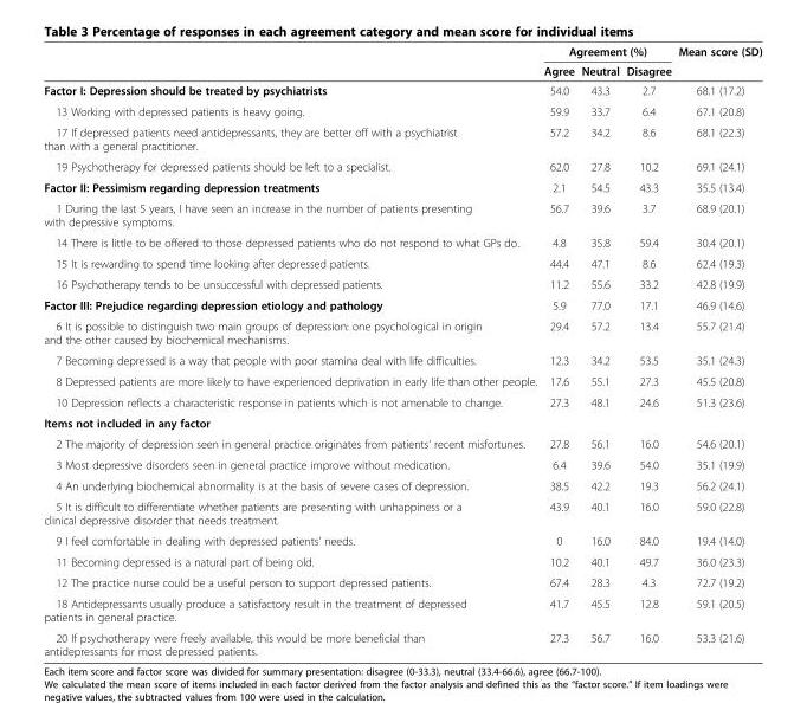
<table><thead><tr><td rowspan="2"></td><td colspan="3">Agreement (%)</td><td rowspan="2">Mean score (SD)</td></tr><tr><td>Agree</td><td>Neutral</td><td>Disagree</td></tr></thead><tbody><tr><td>Factor I: Depression should be treated by psychiatrists</td><td>54.0</td><td>43.3</td><td>2.7</td><td>68.1 (17.2)</td></tr><tr><td>13 Working with depressed patients is heavy going.</td><td>59.9</td><td>33.7</td><td>6.4</td><td>67.1 (20.8)</td></tr><tr><td>17 If depressed patients need antidepressants, they are better off with a psychiatrist than with a general practitioner.</td><td>57.2</td><td>34.2</td><td>8.6</td><td>68.1 (22.3)</td></tr><tr><td>19 Psychotherapy for depressed patients should be left to a specialist.</td><td>62.0</td><td>27.8</td><td>10.2</td><td>69.1 (24.1)</td></tr><tr><td>Factor II: Pessimism regarding depression treatments</td><td>2.1</td><td>54.5</td><td>43.3</td><td>35.5 (13.4)</td></tr><tr><td>1 During the last 5 years, I have seen an increase in the number of patients presenting with depressive symptoms.</td><td>56.7</td><td>39.6</td><td>3.7</td><td>68.9 (20.1)</td></tr><tr><td>14 There is little to be offered to those depressed patients who do not respond to what GPs do.</td><td>4.8</td><td>35.8</td><td>59.4</td><td>30.4 (20.1)</td></tr><tr><td>15 It is rewarding to spend time looking after depressed patients.</td><td>44.4</td><td>47.1</td><td>8.6</td><td>62.4 (19.3)</td></tr><tr><td>16 Psychotherapy tends to be unsuccessful with depressed patients.</td><td>11.2</td><td>55.6</td><td>33.2</td><td>42.8 (19.9)</td></tr><tr><td>Factor III: Prejudice regarding depression etiology and pathology</td><td>5.9</td><td>77.0</td><td>17.1</td><td>46.9 (14.6)</td></tr><tr><td>6 It is possible to distinguish two main groups of depression: one psychological in origin and the other caused by biochemical mechanisms.</td><td>29.4</td><td>57.2</td><td>13.4</td><td>55.7 (21.4)</td></tr><tr><td>7 Becoming depressed is a way that people with poor stamina deal with life difficulties.</td><td>12.3</td><td>34.2</td><td>53.5</td><td>35.1 (24.3)</td></tr><tr><td>8 Depressed patients are more likely to have experienced deprivation in early life than other people.</td><td>17.6</td><td>55.1</td><td>27.3</td><td>45.5 (20.8)</td></tr><tr><td>10 Depression reflects a characteristic response in patients which is not amenable to change.</td><td>27.3</td><td>48.1</td><td>24.6</td><td>51.3 (23.6)</td></tr><tr><td colspan="5">Items not included in any factor</td></tr><tr><td>2 The majority of depression seen in general practice originates from patients&#x27; recent misfortunes.</td><td>27.8</td><td>56.1</td><td>16.0</td><td>54.6 (20.1)</td></tr><tr><td>3 Most depressive disorders seen in general practice improve without medication.</td><td>6.4</td><td>39.6</td><td>54.0</td><td>35.1 (19.9)</td></tr><tr><td>4 An underlying biochemical abnormality is at the basis of severe cases of depression.</td><td>38.5</td><td>42.2</td><td>19.3</td><td>56.2 (24.1)</td></tr><tr><td>5 It is difficult to differentiate whether patients are presenting with unhappiness or a clinical depressive disorder that needs treatment.</td><td>43.9</td><td>40.1</td><td>16.0</td><td>59.0 (22.8)</td></tr><tr><td>9 I feel comfortable in dealing with depressed patients&#x27; needs.</td><td>0</td><td>16.0</td><td>84.0</td><td>19.4 (14.0)</td></tr><tr><td>11 Becoming depressed is a natural part of being old.</td><td>10.2</td><td>40.1</td><td>49.7</td><td>36.0 (23.3)</td></tr><tr><td>12 The practice nurse could be a useful person to support depressed patients.</td><td>67.4</td><td>28.3</td><td>4.3</td><td>72.7 (19.2)</td></tr><tr><td>18 Antidepressants usually produce a satisfactory result in the treatment of depressed patients in general practice.</td><td>41.7</td><td>45.5</td><td>12.8</td><td>59.1 (20.5)</td></tr><tr><td>20 If psychotherapy were freely available, this would be more beneficial than antidepressants for most depressed patients.</td><td>27.3</td><td>56.7</td><td>16.0</td><td>53.3 (21.6)</td></tr></tbody></table>